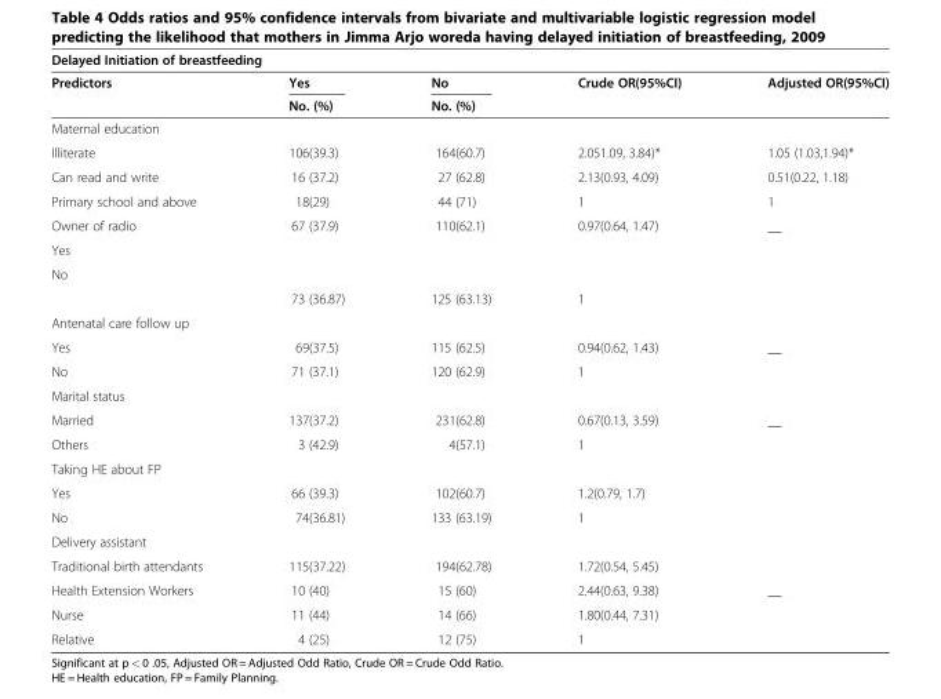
<table><thead><tr><td colspan="5">Delayed Initiation of breastfeeding</td></tr><tr><td rowspan="2">Predictors</td><td rowspan="2">Yes No. (%)</td><td rowspan="2">No No. (%)</td><td rowspan="2">Crude OR(95%CI)</td><td rowspan="2">Adjusted OR(95%CI)</td></tr><tr></tr></thead><tbody><tr><td colspan="5">Maternal education</td></tr><tr><td>Illiterate</td><td>106(39.3)</td><td>164(60.7)</td><td>2.051.09, 3.84)*</td><td>1.05 (1.03,1.94)*</td></tr><tr><td>Can read and write</td><td>16 (37.2)</td><td>27 (62.8)</td><td>2.13(0.93, 4.09)</td><td>0.51(0.22, 1.18)</td></tr><tr><td>Primary school and above</td><td>18(29)</td><td>44 (71)</td><td>1</td><td>1</td></tr><tr><td>Owner of radio</td><td>67 (37.9)</td><td>110(62.1)</td><td>0.97(0.64, 1.47)</td><td>__</td></tr><tr><td colspan="5">Yes</td></tr><tr><td colspan="5">No</td></tr><tr><td></td><td>73 (36.87)</td><td>125 (63.13)</td><td>1</td><td></td></tr><tr><td colspan="5">Antenatal care follow up</td></tr><tr><td>Yes</td><td>69(37.5)</td><td>115 (62.5)</td><td>0.94(0.62, 1.43)</td><td>__</td></tr><tr><td>No</td><td>71 (37.1)</td><td>120 (62.9)</td><td>1</td><td></td></tr><tr><td colspan="5">Marital status</td></tr><tr><td>Married</td><td>137(37.2)</td><td>231(62.8)</td><td>0.67(0.13, 3.59)</td><td>__</td></tr><tr><td>Others</td><td>3 (42.9)</td><td>4(57.1)</td><td>1</td><td></td></tr><tr><td colspan="5">Taking HE about FP</td></tr><tr><td>Yes</td><td>66 (39.3)</td><td>102(60.7)</td><td>1.2(0.79, 1.7)</td><td></td></tr><tr><td>No</td><td>74(36.81)</td><td>133 (63.19)</td><td>1</td><td></td></tr><tr><td colspan="5">Delivery assistant</td></tr><tr><td>Traditional birth attendants</td><td>115(37.22)</td><td>194(62.78)</td><td>1.72(0.54, 5.45)</td><td></td></tr><tr><td>Health Extension Workers</td><td>10 (40)</td><td>15 (60)</td><td>2.44(0.63, 9.38)</td><td>__</td></tr><tr><td>Nurse</td><td>11 (44)</td><td>14 (66)</td><td>1.80(0.44, 7.31)</td><td></td></tr><tr><td>Relative</td><td>4 (25)</td><td>12 (75)</td><td>1</td><td></td></tr></tbody></table>